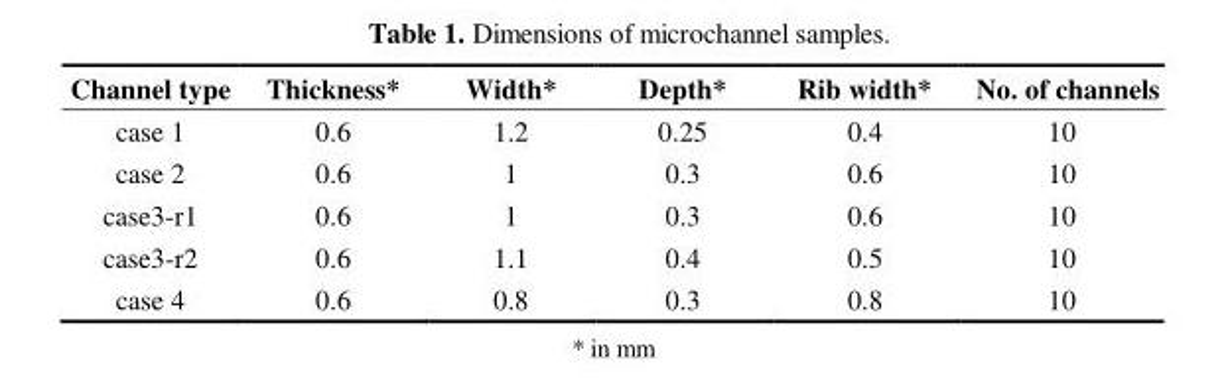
<table><thead><tr><td>Channel type</td><td>Thickness*</td><td>Width*</td><td>Depth*</td><td>Rib width*</td><td>No. of channels</td></tr></thead><tbody><tr><td>case 1</td><td>0.6</td><td>1.2</td><td>0.25</td><td>0.4</td><td>10</td></tr><tr><td>case 2</td><td>0.6</td><td>1</td><td>0.3</td><td>0.6</td><td>10</td></tr><tr><td>case3-r1</td><td>0.6</td><td>1</td><td>0.3</td><td>0.6</td><td>10</td></tr><tr><td>case3-r2</td><td>0.6</td><td>1.1</td><td>0.4</td><td>0.5</td><td>10</td></tr><tr><td>case 4</td><td>0.6</td><td>0.8</td><td>0.3</td><td>0.8</td><td>10</td></tr></tbody></table>